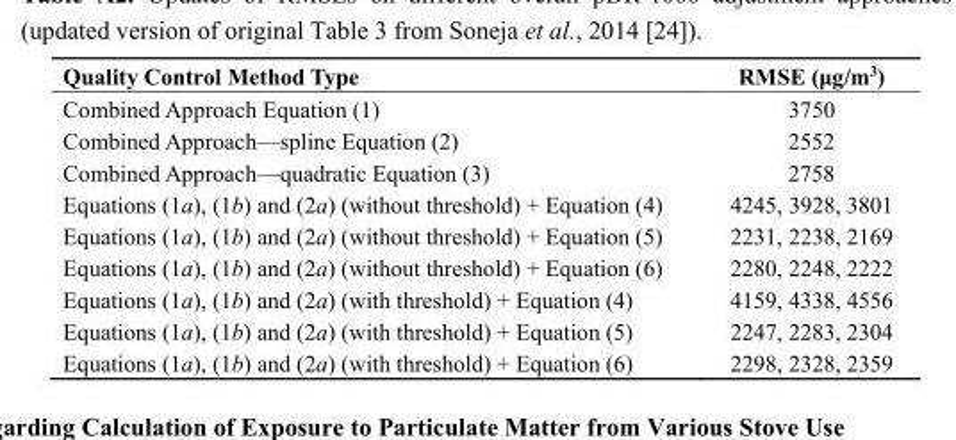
<table><thead><tr><td>Quality Control Method Type</td><td>RMSE (μg/m<sup>3</sup>)</td></tr></thead><tbody><tr><td>Combined Approach Equation (1)</td><td>3750</td></tr><tr><td>Combined Approach—spline Equation (2)</td><td>2552</td></tr><tr><td>Combined Approach—quadratic Equation (3)</td><td>2758</td></tr><tr><td>Equations (1a), (1b) and (2a) (without threshold) + Equation (4)</td><td>4245, 3928, 3801</td></tr><tr><td>Equations (1a), (1b) and (2a) (without threshold) + Equation (5)</td><td>2231, 2238, 2169</td></tr><tr><td>Equations (1a), (1b) and (2a) (without threshold) + Equation (6)</td><td>2280, 2248, 2222</td></tr><tr><td>Equations (1a), (1b) and (2a) (with threshold) + Equation (4)</td><td>4159, 4338, 4556</td></tr><tr><td>Equations (1a), (1b) and (2a) (with threshold) + Equation (5)</td><td>2247, 2283, 2304</td></tr><tr><td>Equations (1a), (1b) and (2a) (with threshold) + Equation (6)</td><td>2298, 2328, 2359</td></tr></tbody></table>